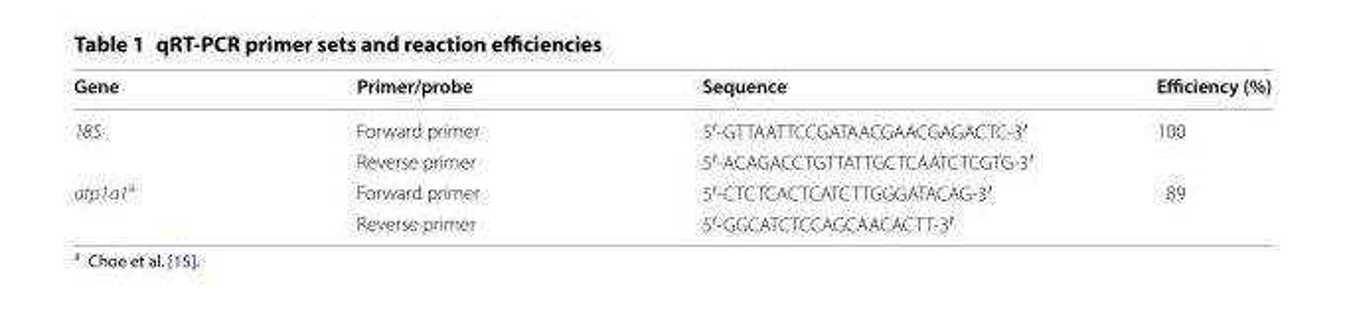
<table><thead><tr><td>Gene</td><td>Primer/probe</td><td>Sequence</td><td>Efficiency (%)</td></tr></thead><tbody><tr><td rowspan="2">18S</td><td>Forward primer</td><td>5′-GTTAATTCCGATAACGAACGAGACTC-3′</td><td rowspan="2">100</td></tr><tr><td>Reverse primer</td><td>5′-ACAGACCTGTTATTGCTCAATCTCGTG-3′</td></tr><tr><td rowspan="2">atp1a1<sup>a</sup></td><td>Forward primer</td><td>5′-CTCTCACTCATCTTGGGATACAG-3′</td><td rowspan="2">89</td></tr><tr><td>Reverse primer</td><td>5′-GGCATCTCCAGCAACACTT-3′</td></tr></tbody></table>